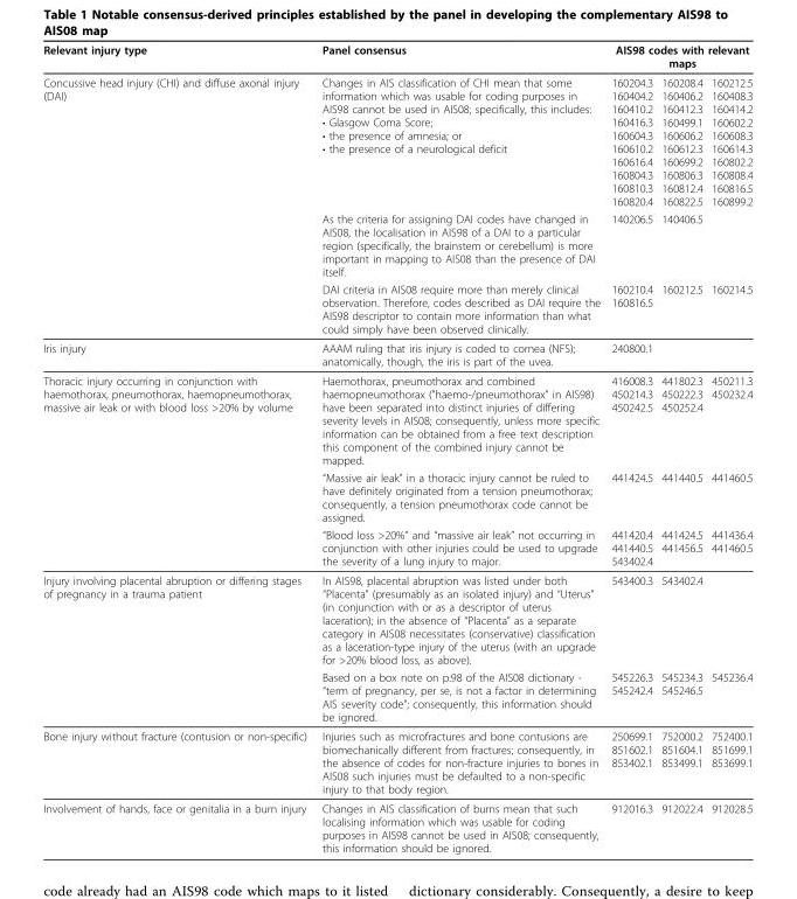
<table><thead><tr><td rowspan="2">Relevant injury type Concussive head injury (CHI) and diffuse axonal injury (DAI)</td><td rowspan="2">Panel consensus Changes in AIS classification of CHI mean that some information which was usable for coding purposes in AIS98 cannot be used in AIS08; specifically, this includes: • Glasgow Coma Score; • the presence of amnesia; or • the presence of a neurological deficit</td><td colspan="3">AIS98 codes with relevant maps</td></tr><tr><td>160204.3 160404.2 160410.2 160416.3 160604.3 160610.2 160616.4 160804.3 160810.3 160820.4</td><td>160208.4 160406.2 160412.3 160499.1 160606.2 160612.3 160699.2 160806.3 160812.4 160822.5</td><td>160212.5 160408.3 160414.2 160602.2 160608.3 160614.3 160802.2 160808.4 160816.5 160899.2</td></tr></thead><tbody><tr><td></td><td>As the criteria for assigning DAI codes have changed in AIS08, the localisation in AIS98 of a DAI to a particular region (specifically, the brainstem or cerebellum) is more important in mapping to AIS08 than the presence of DAI itself.</td><td>140206.5</td><td>140406.5</td><td></td></tr><tr><td></td><td>DAI criteria in AIS08 require more than merely clinical observation. Therefore, codes described as DAI require the AIS98 descriptor to contain more information than what could simply have been observed clinically.</td><td>160210.4 160816.5</td><td>160212.5</td><td>160214.5</td></tr><tr><td>Iris injury</td><td>AAAM ruling that iris injury is coded to cornea (NFS); anatomically, though, the iris is part of the uvea.</td><td>240800.1</td><td></td><td></td></tr><tr><td rowspan="3">Thoracic injury occurring in conjunction with haemothorax, pneumothorax, haemopneumothorax, massive air leak or with blood loss &gt;20% by volume</td><td>Haemothorax, pneumothorax and combined haemopneumothorax (&quot;haemo-/pneumothorax” in AIS98) have been separated into distinct injuries of differing severity levels in AIS08; consequently, unless more specific information can be obtained from a free text description this component of the combined injury cannot be mapped.</td><td>416008.3 450214.3 450242.5</td><td>441802.3 450222.3 450252.4</td><td>450211.3 450232.4</td></tr><tr><td>“Massive air leak” in a thoracic injury cannot be ruled to have definitely originated from a tension pneumothorax; consequently, a tension pneumothorax code cannot be assigned.</td><td>441424.5</td><td>441440.5</td><td>441460.5</td></tr><tr><td>“Blood loss &gt;20%” and “massive air leak” not occurring in conjunction with other injuries could be used to upgrade the severity of a lung injury to major.</td><td>441420.4 441440.5 543402.4</td><td>441424.5 441456.5</td><td>441436.4 441460.5</td></tr><tr><td rowspan="2">Injury involving placental abruption or differing stages of pregnancy in a trauma patient</td><td>In AIS98, placental abruption was listed under both “Placenta” (presumably as an isolated injury) and “Uterus” (in conjunction with or as a descriptor of uterus laceration); in the absence of “Placenta” as a separate category in AIS08 necessitates (conservative) classification as a laceration-type injury of the uterus (with an upgrade for &gt;20% blood loss, as above).</td><td>543400.3</td><td>543402.4</td><td></td></tr><tr><td>Based on a box note on p.98 of the AIS08 dictionary - “term of pregnancy, per se, is not a factor in determining AIS severity code&quot;; consequently, this information should be ignored.</td><td>545226.3 545242.4</td><td>545234.3 545246.5</td><td>545236.4</td></tr><tr><td>Bone injury without fracture (contusion or non-specific)</td><td>Injuries such as microfractures and bone contusions are biomechanically different from fractures; consequently, in the absence of codes for non-fracture injuries to bones in AIS08 such injuries must be defaulted to a non-specific injury to that body region.</td><td>250699.1 851602.1 853402.1</td><td>752000.2 851604.1 853499.1</td><td>752400.1 851699.1 853699.1</td></tr><tr><td>Involvement of hands, face or genitalia in a burn injury</td><td>Changes in AIS classification of burns mean that such localising information which was usable for coding purposes in AIS98 cannot be used in AIS08; consequently, this information should be ignored.</td><td>912016.3</td><td>912022.4</td><td>912028.5</td></tr></tbody></table>